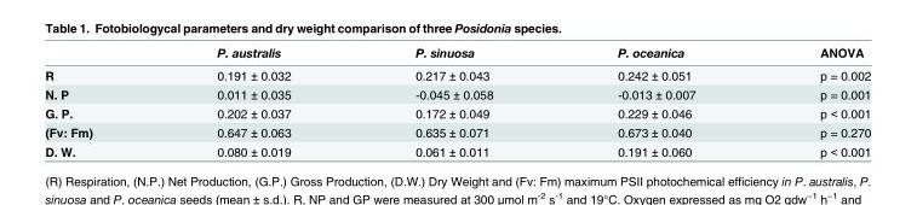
<table><thead><tr><td></td><td>P. australis</td><td>P. sinuosa</td><td>P. oceanica</td><td>ANOVA</td></tr></thead><tbody><tr><td>R</td><td>0.191 ± 0.032</td><td>0.217 ± 0.043</td><td>0.242 ± 0.051</td><td>p = 0.002</td></tr><tr><td>N. P</td><td>0.011 ± 0.035</td><td>-0.045 ± 0.058</td><td>-0.013 ± 0.007</td><td>p = 0.001</td></tr><tr><td>G. P.</td><td>0.202 ± 0.037</td><td>0.172 ± 0.049</td><td>0.229 ± 0.046</td><td>p &lt; 0.001</td></tr><tr><td>(Fv: Fm)</td><td>0.647 ± 0.063</td><td>0.635 ± 0.071</td><td>0.673 ± 0.040</td><td>p = 0.270</td></tr><tr><td>D. W.</td><td>0.080 ± 0.019</td><td>0.061 ± 0.011</td><td>0.191 ± 0.060</td><td>p &lt; 0.001</td></tr></tbody></table>